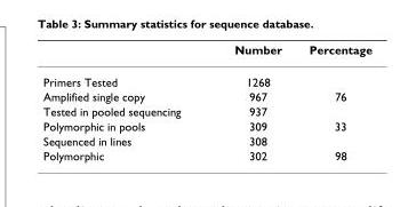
<table><thead><tr><td></td><td>Number</td><td>Percentage</td></tr></thead><tbody><tr><td>Primers Tested</td><td>1268</td><td></td></tr><tr><td>Amplified single copy</td><td>967</td><td>76</td></tr><tr><td>Tested in pooled sequencing</td><td>937</td><td></td></tr><tr><td>Polymorphic in pools</td><td>309</td><td>33</td></tr><tr><td>Sequenced in lines</td><td>308</td><td></td></tr><tr><td>Polymorphic</td><td>302</td><td>98</td></tr></tbody></table>